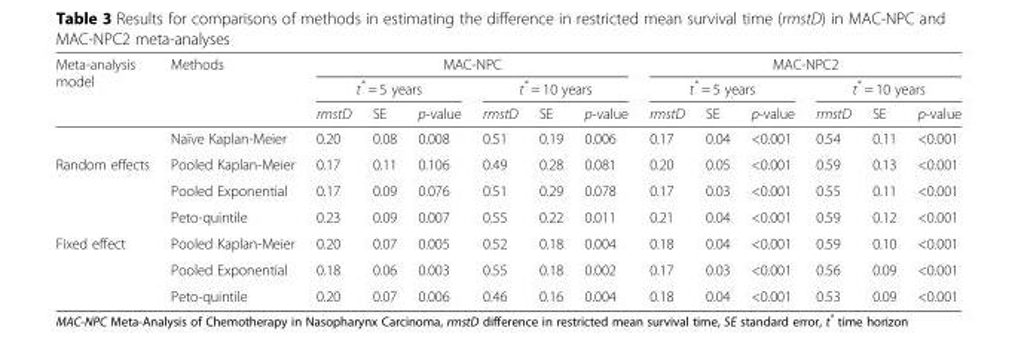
<table><thead><tr><td rowspan="3">Meta-analysis model</td><td rowspan="3">Methods</td><td colspan="6">MAC-NPC</td><td colspan="6">MAC-NPC2</td></tr><tr><td colspan="3">t* = 5 years</td><td colspan="3">t* = 10 years</td><td colspan="3">t* = 5 years</td><td colspan="3">t* = 10 years</td></tr><tr><td>rmstD</td><td>SE</td><td>p-value</td><td>rmstD</td><td>SE</td><td>p-value</td><td>rmstD</td><td>SE</td><td>p-value</td><td>rmstD</td><td>SE</td><td>p-value</td></tr></thead><tbody><tr><td></td><td>Naïve Kaplan-Meier</td><td>0.20</td><td>0.08</td><td>0.008</td><td>0.51</td><td>0.19</td><td>0.006</td><td>0.17</td><td>0.04</td><td>&lt;0.001</td><td>0.54</td><td>0.11</td><td>&lt;0.001</td></tr><tr><td rowspan="3">Random effects</td><td>Pooled Kaplan-Meier</td><td>0.17</td><td>0.11</td><td>0.106</td><td>0.49</td><td>0.28</td><td>0.081</td><td>0.20</td><td>0.05</td><td>&lt;0.001</td><td>0.59</td><td>0.13</td><td>&lt;0.001</td></tr><tr><td>Pooled Exponential</td><td>0.17</td><td>0.09</td><td>0.076</td><td>0.51</td><td>0.29</td><td>0.078</td><td>0.17</td><td>0.03</td><td>&lt;0.001</td><td>0.55</td><td>0.11</td><td>&lt;0.001</td></tr><tr><td>Peto-quintile</td><td>0.23</td><td>0.09</td><td>0.007</td><td>0.55</td><td>0.22</td><td>0.011</td><td>0.21</td><td>0.04</td><td>&lt;0.001</td><td>0.59</td><td>0.12</td><td>&lt;0.001</td></tr><tr><td rowspan="3">Fixed effect</td><td>Pooled Kaplan-Meier</td><td>0.20</td><td>0.07</td><td>0.005</td><td>0.52</td><td>0.18</td><td>0.004</td><td>0.18</td><td>0.04</td><td>&lt;0.001</td><td>0.59</td><td>0.10</td><td>&lt;0.001</td></tr><tr><td>Pooled Exponential</td><td>0.18</td><td>0.06</td><td>0.003</td><td>0.55</td><td>0.18</td><td>0.002</td><td>0.17</td><td>0.03</td><td>&lt;0.001</td><td>0.56</td><td>0.09</td><td>&lt;0.001</td></tr><tr><td>Peto-quintile</td><td>0.20</td><td>0.07</td><td>0.006</td><td>0.46</td><td>0.16</td><td>0.004</td><td>0.18</td><td>0.04</td><td>&lt;0.001</td><td>0.53</td><td>0.09</td><td>&lt;0.001</td></tr></tbody></table>